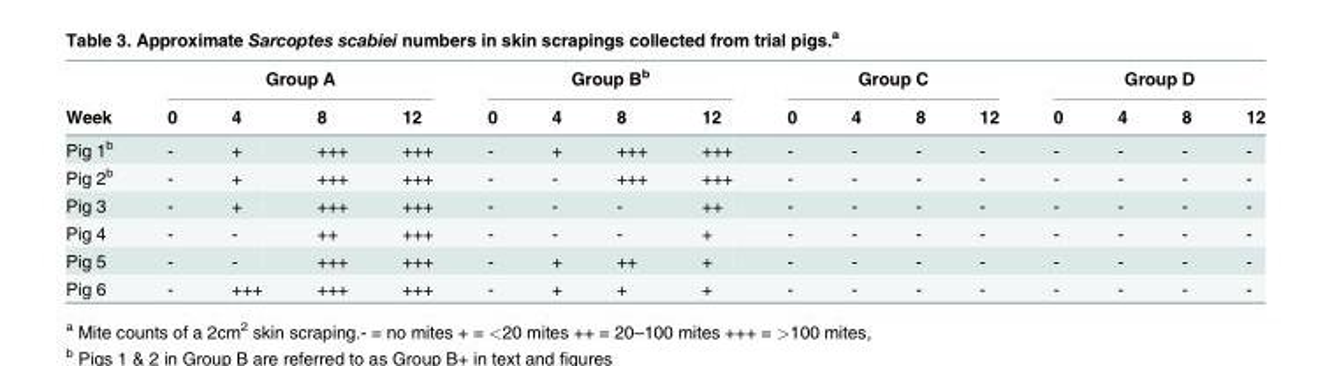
<table><thead><tr><td rowspan="2">Week</td><td colspan="4">Group A</td><td colspan="4">Group B<sup>b</sup></td><td colspan="4">Group C</td><td colspan="4">Group D</td></tr><tr><td>0</td><td>4</td><td>8</td><td>12</td><td>0</td><td>4</td><td>8</td><td>12</td><td>0</td><td>4</td><td>8</td><td>12</td><td>0</td><td>4</td><td>8</td><td>12</td></tr></thead><tbody><tr><td>Pig 1<sup>b</sup></td><td>-</td><td>+</td><td>+++</td><td>+++</td><td>-</td><td>+</td><td>+++</td><td>+++</td><td>-</td><td>-</td><td>-</td><td>-</td><td>-</td><td>-</td><td>-</td><td>-</td></tr><tr><td>Pig 2<sup>b</sup></td><td>-</td><td>+</td><td>+++</td><td>+++</td><td>-</td><td>-</td><td>+++</td><td>+++</td><td>-</td><td>-</td><td>-</td><td>-</td><td>-</td><td>-</td><td>-</td><td>-</td></tr><tr><td>Pig 3</td><td>-</td><td>+</td><td>+++</td><td>+++</td><td>-</td><td>-</td><td>-</td><td>++</td><td>-</td><td>-</td><td>-</td><td>-</td><td>-</td><td>-</td><td>-</td><td>-</td></tr><tr><td>Pig 4</td><td>-</td><td>-</td><td>++</td><td>+++</td><td>-</td><td>-</td><td>-</td><td>+</td><td>-</td><td>-</td><td>-</td><td>-</td><td>-</td><td>-</td><td>-</td><td>-</td></tr><tr><td>Pig 5</td><td>-</td><td>-</td><td>+++</td><td>+++</td><td>-</td><td>+</td><td>++</td><td>+</td><td>-</td><td>-</td><td>-</td><td>-</td><td>-</td><td>-</td><td>-</td><td>-</td></tr><tr><td>Pig 6</td><td>-</td><td>+++</td><td>+++</td><td>+++</td><td>-</td><td>+</td><td>+</td><td>+</td><td>-</td><td>-</td><td>-</td><td>-</td><td>-</td><td>-</td><td>-</td><td>-</td></tr></tbody></table>